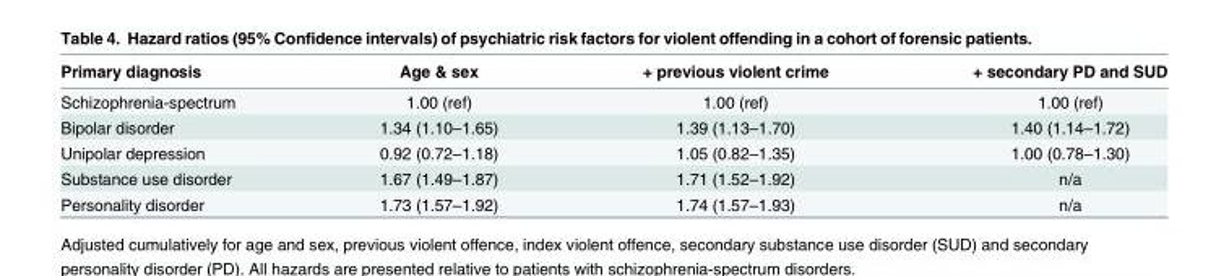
<table><thead><tr><td>Primary diagnosis</td><td>Age &amp; sex</td><td>+ previous violent crime</td><td>+ secondary PD and SUD</td></tr></thead><tbody><tr><td>Schizophrenia-spectrum</td><td>1.00 (ref)</td><td>1.00 (ref)</td><td>1.00 (ref)</td></tr><tr><td>Bipolar disorder</td><td>1.34 (1.10–1.65)</td><td>1.39 (1.13–1.70)</td><td>1.40 (1.14–1.72)</td></tr><tr><td>Unipolar depression</td><td>0.92 (0.72–1.18)</td><td>1.05 (0.82–1.35)</td><td>1.00 (0.78–1.30)</td></tr><tr><td>Substance use disorder</td><td>1.67 (1.49–1.87)</td><td>1.71 (1.52–1.92)</td><td>n/a</td></tr><tr><td>Personality disorder</td><td>1.73 (1.57–1.92)</td><td>1.74 (1.57–1.93)</td><td>n/a</td></tr></tbody></table>